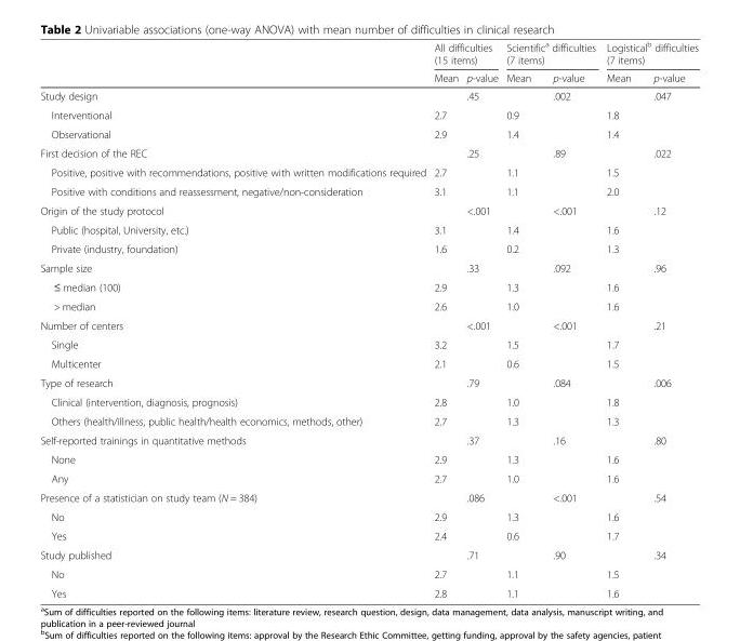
<table><thead><tr><td rowspan="2"></td><td colspan="2">All difficulties (15 items)</td><td colspan="2">Scientific<sup>a</sup> difficulties (7 items)</td><td colspan="2">Logistical<sup>b</sup> difficulties (7 items)</td></tr><tr><td>Mean</td><td>p-value</td><td>Mean</td><td>p-value</td><td>Mean</td><td>p-value</td></tr></thead><tbody><tr><td>Study design</td><td></td><td>.45</td><td></td><td>.002</td><td></td><td>.047</td></tr><tr><td>Interventional</td><td>2.7</td><td></td><td>0.9</td><td></td><td>1.8</td><td></td></tr><tr><td>Observational</td><td>2.9</td><td></td><td>1.4</td><td></td><td>1.4</td><td></td></tr><tr><td>First decision of the REC</td><td></td><td>.25</td><td></td><td>.89</td><td></td><td>.022</td></tr><tr><td>Positive, positive with recommendations, positive with written modifications required</td><td>2.7</td><td></td><td>1.1</td><td></td><td>1.5</td><td></td></tr><tr><td>Positive with conditions and reassessment, negative/non-consideration</td><td>3.1</td><td></td><td>1.1</td><td></td><td>2.0</td><td></td></tr><tr><td>Origin of the study protocol</td><td></td><td>&lt;.001</td><td></td><td>&lt;.001</td><td></td><td>.12</td></tr><tr><td>Public (hospital, University, etc.)</td><td>3.1</td><td></td><td>1.4</td><td></td><td>1.6</td><td></td></tr><tr><td>Private (industry, foundation)</td><td>1.6</td><td></td><td>0.2</td><td></td><td>1.3</td><td></td></tr><tr><td>Sample size</td><td></td><td>.33</td><td></td><td>.092</td><td></td><td>.96</td></tr><tr><td>≤ median (100)</td><td>2.9</td><td></td><td>1.3</td><td></td><td>1.6</td><td></td></tr><tr><td>&gt; median</td><td>2.6</td><td></td><td>1.0</td><td></td><td>1.6</td><td></td></tr><tr><td>Number of centers</td><td></td><td>&lt;.001</td><td></td><td>&lt;.001</td><td></td><td>.21</td></tr><tr><td>Single</td><td>3.2</td><td></td><td>1.5</td><td></td><td>1.7</td><td></td></tr><tr><td>Multicenter</td><td>2.1</td><td></td><td>0.6</td><td></td><td>1.5</td><td></td></tr><tr><td>Type of research</td><td></td><td>.79</td><td></td><td>.084</td><td></td><td>.006</td></tr><tr><td>Clinical (intervention, diagnosis, prognosis)</td><td>2.8</td><td></td><td>1.0</td><td></td><td>1.8</td><td></td></tr><tr><td>Others (health/illness, public health/health economics, methods, other)</td><td>2.7</td><td></td><td>1.3</td><td></td><td>1.3</td><td></td></tr><tr><td>Self-reported trainings in quantitative methods</td><td></td><td>.37</td><td></td><td>.16</td><td></td><td>.80</td></tr><tr><td>None</td><td>2.9</td><td></td><td>1.3</td><td></td><td>1.6</td><td></td></tr><tr><td>Any</td><td>2.7</td><td></td><td>1.0</td><td></td><td>1.6</td><td></td></tr><tr><td>Presence of a statistician on study team (N = 384)</td><td></td><td>.086</td><td></td><td>&lt;.001</td><td></td><td>.54</td></tr><tr><td>No</td><td>2.9</td><td></td><td>1.3</td><td></td><td>1.6</td><td></td></tr><tr><td>Yes</td><td>2.4</td><td></td><td>0.6</td><td></td><td>1.7</td><td></td></tr><tr><td>Study published</td><td></td><td>.71</td><td></td><td>.90</td><td></td><td>.34</td></tr><tr><td>No</td><td>2.7</td><td></td><td>1.1</td><td></td><td>1.5</td><td></td></tr><tr><td>Yes</td><td>2.8</td><td></td><td>1.1</td><td></td><td>1.6</td><td></td></tr></tbody></table>